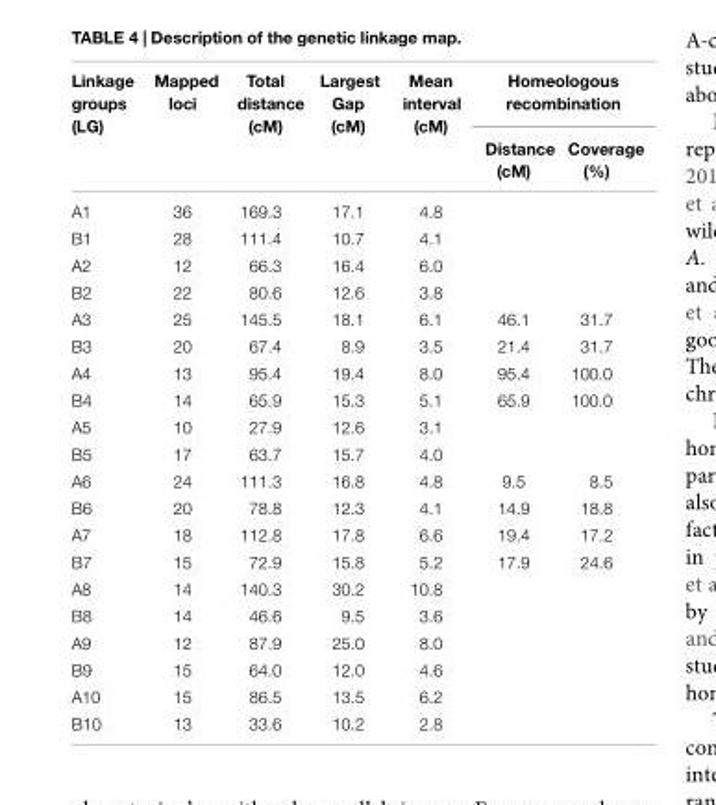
<table><thead><tr><td rowspan="2">Linkage groups (LG)</td><td rowspan="2">Mapped loci</td><td rowspan="2">Total distance (cM)</td><td rowspan="2">Largest Gap (cM)</td><td rowspan="2">Mean interval (cM)</td><td colspan="2">Homeologous recombination</td></tr><tr><td>Distance (cM)</td><td>Coverage (%)</td></tr></thead><tbody><tr><td>A1</td><td>36</td><td>169.3</td><td>17.1</td><td>4.8</td><td></td><td></td></tr><tr><td>B1</td><td>28</td><td>111.4</td><td>10.7</td><td>4.1</td><td></td><td></td></tr><tr><td>A2</td><td>12</td><td>66.3</td><td>16.4</td><td>6.0</td><td></td><td></td></tr><tr><td>B2</td><td>22</td><td>80.6</td><td>12.6</td><td>3.8</td><td></td><td></td></tr><tr><td>A3</td><td>25</td><td>145.5</td><td>18.1</td><td>6.1</td><td>46.1</td><td>31.7</td></tr><tr><td>B3</td><td>20</td><td>67.4</td><td>8.9</td><td>3.5</td><td>21.4</td><td>31.7</td></tr><tr><td>A4</td><td>13</td><td>95.4</td><td>19.4</td><td>8.0</td><td>95.4</td><td>100.0</td></tr><tr><td>B4</td><td>14</td><td>65.9</td><td>15.3</td><td>5.1</td><td>65.9</td><td>100.0</td></tr><tr><td>A5</td><td>10</td><td>27.9</td><td>12.6</td><td>3.1</td><td></td><td></td></tr><tr><td>B5</td><td>17</td><td>63.7</td><td>15.7</td><td>4.0</td><td></td><td></td></tr><tr><td>A6</td><td>24</td><td>111.3</td><td>16.8</td><td>4.8</td><td>9.5</td><td>8.5</td></tr><tr><td>B6</td><td>20</td><td>78.8</td><td>12.3</td><td>4.1</td><td>14.9</td><td>18.8</td></tr><tr><td>A7</td><td>18</td><td>112.8</td><td>17.8</td><td>6.6</td><td>19.4</td><td>17.2</td></tr><tr><td>B7</td><td>15</td><td>72.9</td><td>15.8</td><td>5.2</td><td>17.9</td><td>24.6</td></tr><tr><td>A8</td><td>14</td><td>140.3</td><td>30.2</td><td>10.8</td><td></td><td></td></tr><tr><td>B8</td><td>14</td><td>46.6</td><td>9.5</td><td>3.6</td><td></td><td></td></tr><tr><td>A9</td><td>12</td><td>87.9</td><td>25.0</td><td>8.0</td><td></td><td></td></tr><tr><td>B9</td><td>15</td><td>64.0</td><td>12.0</td><td>4.6</td><td></td><td></td></tr><tr><td>A10</td><td>15</td><td>86.5</td><td>13.5</td><td>6.2</td><td></td><td></td></tr><tr><td>B10</td><td>13</td><td>33.6</td><td>10.2</td><td>2.8</td><td></td><td></td></tr></tbody></table>